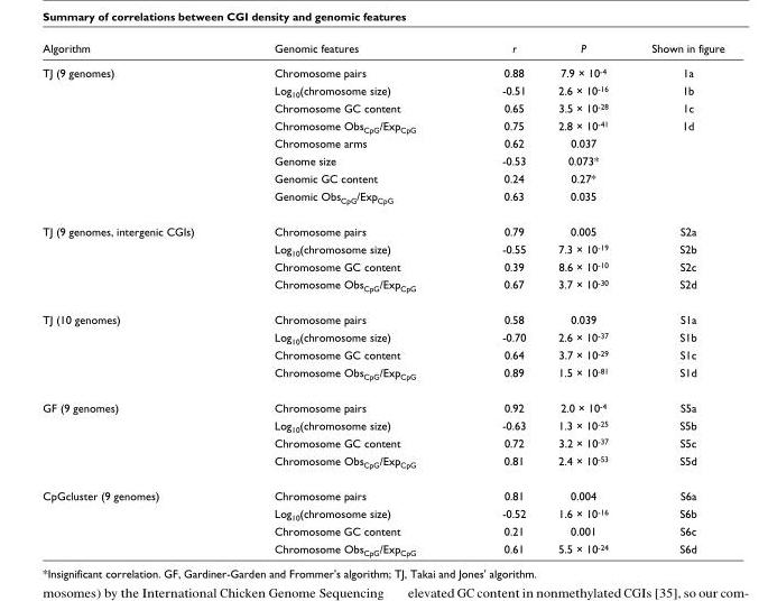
<table><thead><tr><td>Algorithm</td><td>Genomic features</td><td>r</td><td>P</td><td>Shown in figure</td></tr></thead><tbody><tr><td rowspan="8">TJ (9 genomes)</td><td>Chromosome pairs</td><td>0.88</td><td>7.9 × 10<sup>-4</sup></td><td>1a</td></tr><tr><td>Log<sub>10</sub>(chromosome size)</td><td>-0.51</td><td>2.6 × 10<sup>-16</sup></td><td>1b</td></tr><tr><td>Chromosome GC content</td><td>0.65</td><td>3.5 × 10<sup>-28</sup></td><td>1c</td></tr><tr><td>Chromosome Obs<sub>CpG</sub>/Exp<sub>CpG</sub></td><td>0.75</td><td>2.8 × 10<sup>-41</sup></td><td>1d</td></tr><tr><td>Chromosome arms</td><td>0.62</td><td>0.037</td><td></td></tr><tr><td>Genome size</td><td>-0.53</td><td>0.073*</td><td></td></tr><tr><td>Genomic GC content</td><td>0.24</td><td>0.27*</td><td></td></tr><tr><td>Genomic Obs<sub>CpG</sub>/Exp<sub>CpG</sub></td><td>0.63</td><td>0.035</td><td></td></tr><tr><td rowspan="4">TJ (9 genomes, intergenic CGIs)</td><td>Chromosome pairs</td><td>0.79</td><td>0.005</td><td>S2a</td></tr><tr><td>Log<sub>10</sub>(chromosome size)</td><td>-0.55</td><td>7.3 × 10<sup>-19</sup></td><td>S2b</td></tr><tr><td>Chromosome GC content</td><td>0.39</td><td>8.6 × 10<sup>-10</sup></td><td>S2c</td></tr><tr><td>Chromosome Obs<sub>CpG</sub>/Exp<sub>CpG</sub></td><td>0.67</td><td>3.7 × 10<sup>-30</sup></td><td>S2d</td></tr><tr><td rowspan="4">TJ (10 genomes)</td><td>Chromosome pairs</td><td>0.58</td><td>0.039</td><td>S1a</td></tr><tr><td>Log<sub>10</sub>(chromosome size)</td><td>-0.70</td><td>2.6 × 10<sup>-37</sup></td><td>S1b</td></tr><tr><td>Chromosome GC content</td><td>0.64</td><td>3.7 × 10<sup>-29</sup></td><td>S1c</td></tr><tr><td>Chromosome Obs<sub>CpG</sub>/Exp<sub>CpG</sub></td><td>0.89</td><td>1.5 × 10<sup>-81</sup></td><td>S1d</td></tr><tr><td rowspan="4">GF (9 genomes)</td><td>Chromosome pairs</td><td>0.92</td><td>2.0 × 10<sup>-4</sup></td><td>S5a</td></tr><tr><td>Log<sub>10</sub>(chromosome size)</td><td>-0.63</td><td>1.3 × 10<sup>-25</sup></td><td>S5b</td></tr><tr><td>Chromosome GC content</td><td>0.72</td><td>3.2 × 10<sup>-37</sup></td><td>S5c</td></tr><tr><td>Chromosome Obs<sub>CpG</sub>/Exp<sub>CpG</sub></td><td>0.81</td><td>2.4 × 10<sup>-53</sup></td><td>S5d</td></tr><tr><td rowspan="4">CpGcluster (9 genomes)</td><td>Chromosome pairs</td><td>0.81</td><td>0.004</td><td>S6a</td></tr><tr><td>Log<sub>10</sub>(chromosome size)</td><td>-0.52</td><td>1.6 × 10<sup>-16</sup></td><td>S6b</td></tr><tr><td>Chromosome GC content</td><td>0.21</td><td>0.001</td><td>S6c</td></tr><tr><td>Chromosome Obs<sub>CpG</sub>/Exp<sub>CpG</sub></td><td>0.61</td><td>5.5 × 10<sup>-24</sup></td><td>S6d</td></tr></tbody></table>